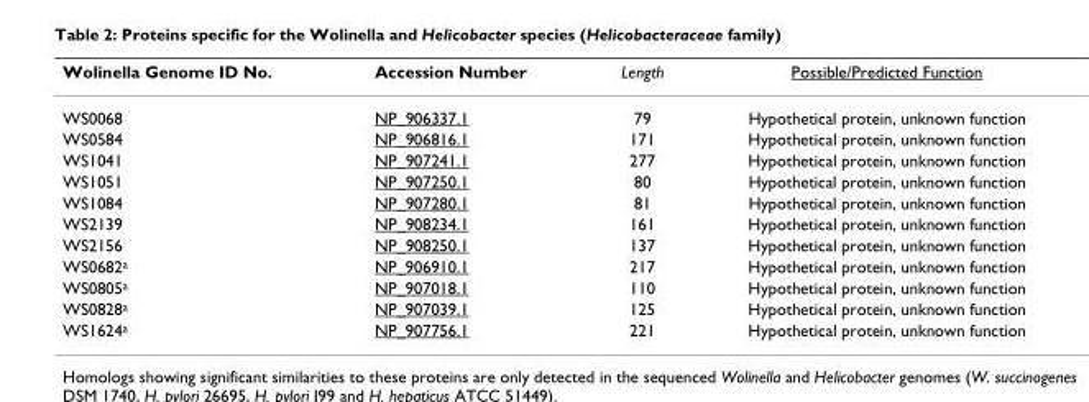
<table><thead><tr><td>Wolinella Genome ID No.</td><td>Accession Number</td><td>Length</td><td>Possible/Predicted Function</td></tr></thead><tbody><tr><td>WS0068</td><td>NP_906337.1</td><td>79</td><td>Hypothetical protein, unknown function</td></tr><tr><td>WS0584</td><td>NP_906816.1</td><td>171</td><td>Hypothetical protein, unknown function</td></tr><tr><td>WS1041</td><td>NP_907241.1</td><td>277</td><td>Hypothetical protein, unknown function</td></tr><tr><td>WS1051</td><td>NP_907250.1</td><td>80</td><td>Hypothetical protein, unknown function</td></tr><tr><td>WS1084</td><td>NP_907280.1</td><td>81</td><td>Hypothetical protein, unknown function</td></tr><tr><td>WS2139</td><td>NP_908234.1</td><td>161</td><td>Hypothetical protein, unknown function</td></tr><tr><td>WS2156</td><td>NP_908250.1</td><td>137</td><td>Hypothetical protein, unknown function</td></tr><tr><td>WS0682a</td><td>NP_906910.1</td><td>217</td><td>Hypothetical protein, unknown function</td></tr><tr><td>WS0805a</td><td>NP_907018.1</td><td>110</td><td>Hypothetical protein, unknown function</td></tr><tr><td>WS0828a</td><td>NP_907039.1</td><td>125</td><td>Hypothetical protein, unknown function</td></tr><tr><td>WS1624a</td><td>NP_907756.1</td><td>221</td><td>Hypothetical protein, unknown function</td></tr></tbody></table>